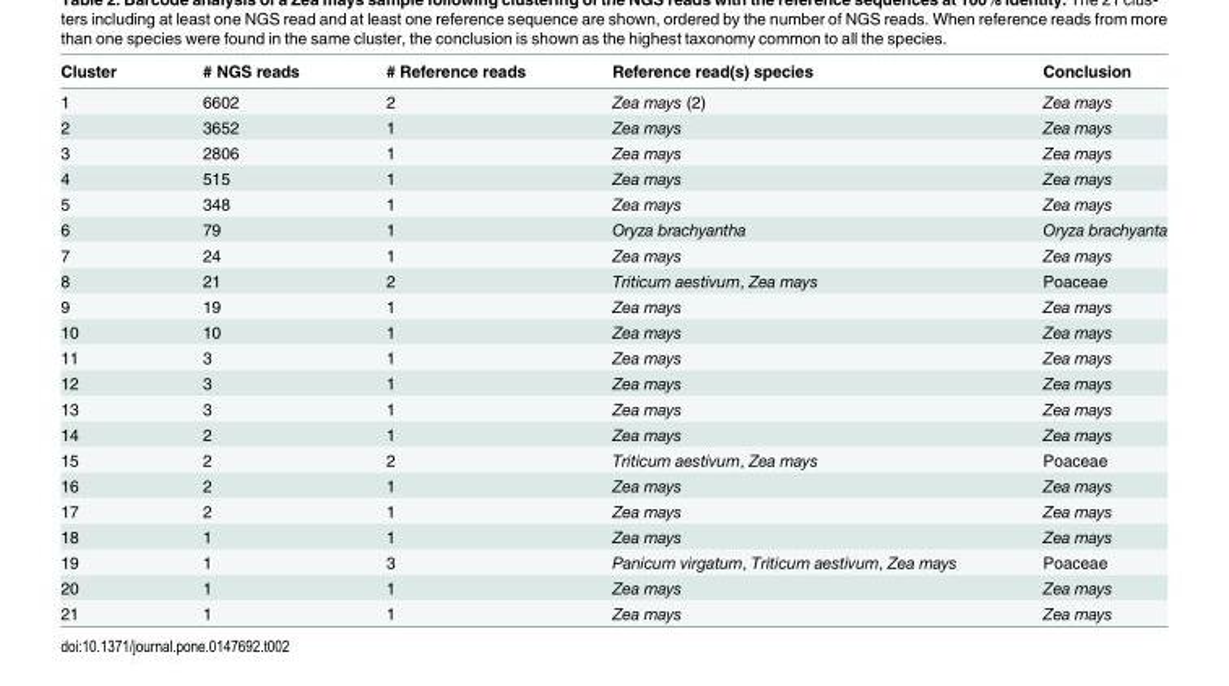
<table><thead><tr><td>Cluster</td><td># NGS reads</td><td># Reference reads</td><td>Reference read(s) species</td><td>Conclusion</td></tr></thead><tbody><tr><td>1</td><td>6602</td><td>2</td><td>Zea mays (2)</td><td>Zea mays</td></tr><tr><td>2</td><td>3652</td><td>1</td><td>Zea mays</td><td>Zea mays</td></tr><tr><td>3</td><td>2806</td><td>1</td><td>Zea mays</td><td>Zea mays</td></tr><tr><td>4</td><td>515</td><td>1</td><td>Zea mays</td><td>Zea mays</td></tr><tr><td>5</td><td>348</td><td>1</td><td>Zea mays</td><td>Zea mays</td></tr><tr><td>6</td><td>79</td><td>1</td><td>Oryza brachyantha</td><td>Oryza brachyanta</td></tr><tr><td>7</td><td>24</td><td>1</td><td>Zea mays</td><td>Zea mays</td></tr><tr><td>8</td><td>21</td><td>2</td><td>Triticum aestivum, Zea mays</td><td>Poaceae</td></tr><tr><td>9</td><td>19</td><td>1</td><td>Zea mays</td><td>Zea mays</td></tr><tr><td>10</td><td>10</td><td>1</td><td>Zea mays</td><td>Zea mays</td></tr><tr><td>11</td><td>3</td><td>1</td><td>Zea mays</td><td>Zea mays</td></tr><tr><td>12</td><td>3</td><td>1</td><td>Zea mays</td><td>Zea mays</td></tr><tr><td>13</td><td>3</td><td>1</td><td>Zea mays</td><td>Zea mays</td></tr><tr><td>14</td><td>2</td><td>1</td><td>Zea mays</td><td>Zea mays</td></tr><tr><td>15</td><td>2</td><td>2</td><td>Triticum aestivum, Zea mays</td><td>Poaceae</td></tr><tr><td>16</td><td>2</td><td>1</td><td>Zea mays</td><td>Zea mays</td></tr><tr><td>17</td><td>2</td><td>1</td><td>Zea mays</td><td>Zea mays</td></tr><tr><td>18</td><td>1</td><td>1</td><td>Zea mays</td><td>Zea mays</td></tr><tr><td>19</td><td>1</td><td>3</td><td>Panicum virgatum, Triticum aestivum, Zea mays</td><td>Poaceae</td></tr><tr><td>20</td><td>1</td><td>1</td><td>Zea mays</td><td>Zea mays</td></tr><tr><td>21</td><td>1</td><td>1</td><td>Zea mays</td><td>Zea mays</td></tr></tbody></table>